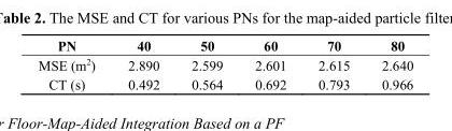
<table><thead><tr><td>PN</td><td>40</td><td>50</td><td>60</td><td>70</td><td>80</td></tr></thead><tbody><tr><td>MSE (m<sup>2</sup>)</td><td>2.890</td><td>2.599</td><td>2.601</td><td>2.615</td><td>2.640</td></tr><tr><td>CT (s)</td><td>0.492</td><td>0.564</td><td>0.692</td><td>0.793</td><td>0.966</td></tr></tbody></table>